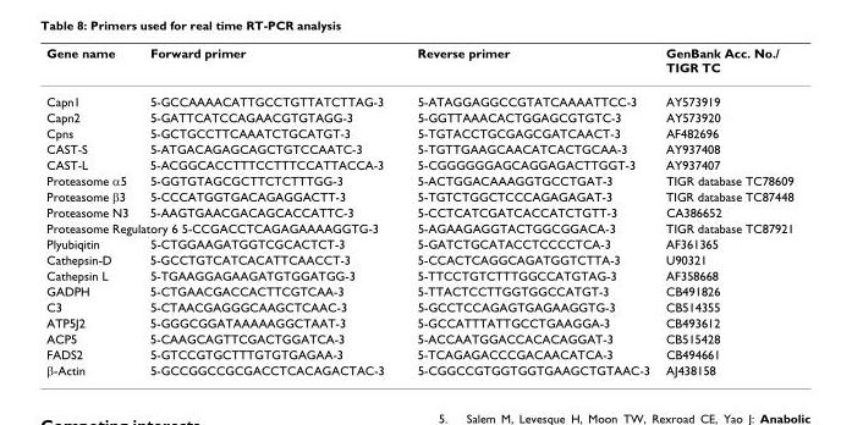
<table><thead><tr><td>Gene name</td><td>Forward primer</td><td>Reverse primer</td><td>GenBank Acc. No./ TIGR TC</td></tr></thead><tbody><tr><td>Capn1</td><td>5-GCCAAAACATTGCCTGTTATCTTAG-3</td><td>5-ATAGGAGGCCGTATCAAAATTCC-3</td><td>AY573919</td></tr><tr><td>Capn2</td><td>5-GATTCATCCAGAACGTGTAGG-3</td><td>5-GGTTAAACACTGGAGCGTGTC-3</td><td>AY573920</td></tr><tr><td>Cpns</td><td>5-GCTGCCTTCAAATCTGCATGT-3</td><td>5-TGTACCTGCGAGCGATCAACT-3</td><td>AF482696</td></tr><tr><td>CAST-S</td><td>5-ATGACAGAGCAGCTGTCCAATC-3</td><td>5-TGTTGAAGCAACATCACTGCAA-3</td><td>AY937408</td></tr><tr><td>CAST-L</td><td>5-ACGGCACCTTTCCTTTCCATTACCA-3</td><td>5-CGGGGGGAGCAGGAGACTTGGT-3</td><td>AY937407</td></tr><tr><td>Proteasome α5</td><td>5-GGTGTAGCGCTTCTCTTTGG-3</td><td>5-ACTGGACAAAGGTGCCTGAT-3</td><td>TIGR database TC78609</td></tr><tr><td>Proteasome β3</td><td>5-CCCATGGTGACAGAGGACTT-3</td><td>5-TGTCTGGCTCCCAGAGAGAT-3</td><td>TIGR database TC87448</td></tr><tr><td>Proteasome N3</td><td>5-AAGTGAACGACAGCACCATTC-3</td><td>5-CCTCATCGATCACCATCTGTT-3</td><td>CA386652</td></tr><tr><td colspan="2">Proteasome Regulatory 6 5-CCGACCTCAGAGAAAAGGTG-3</td><td>5-AGAAGAGGTACTGGCGGACA-3</td><td>TIGR database TC87921</td></tr><tr><td>Plyubiqitin</td><td>5-CTGGAAGATGGTCGCACTCT-3</td><td>5-GATCTGCATACCTCCCCTCA-3</td><td>AF361365</td></tr><tr><td>Cathepsin-D</td><td>5-GCCTGTCATCACATTCAACCT-3</td><td>5-CCACTCAGGCAGATGGTCTTA-3</td><td>U90321</td></tr><tr><td>Cathepsin L</td><td>5-TGAAGGAGAAGATGTGGATGG-3</td><td>5-TTCCTGTCTTTGGCCATGTAG-3</td><td>AF358668</td></tr><tr><td>GADPH</td><td>5-CTGAACGACCACTTCGTCAA-3</td><td>5-TTACTCCTTGGTGGCCATGT-3</td><td>CB491826</td></tr><tr><td>C3</td><td>5-CTAACGAGGGCAAGCTCAAC-3</td><td>5-GCCTCCAGAGTGAGAAGGTG-3</td><td>CB514355</td></tr><tr><td>ATP5J2</td><td>5-GGGCGGATAAAAAGGCTAAT-3</td><td>5-GCCATTTATTGCCTGAAGGA-3</td><td>CB493612</td></tr><tr><td>ACP5</td><td>5-CAAGCAGTTCGACTGGATCA-3</td><td>5-ACCAATGGACCACACAGGAT-3</td><td>CB515428</td></tr><tr><td>FADS2</td><td>5-GTCCGTGCTTTGTGTGAGAA-3</td><td>5-TCAGAGACCCGACAACATCA-3</td><td>CB494661</td></tr><tr><td>β-Actin</td><td>5-GCCGGCCGCGACCTCACAGACTAC-3</td><td>5-CGGCCGTGGTGGTGAAGCTGTAAC-3</td><td>AJ438158</td></tr></tbody></table>